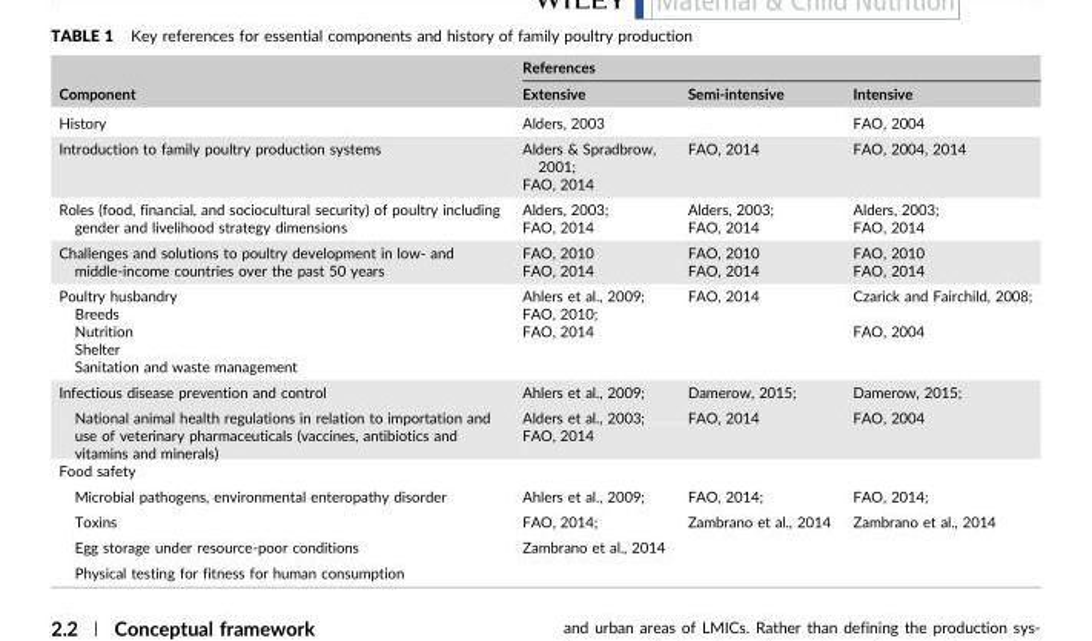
<table><thead><tr><td rowspan="2">Component</td><td colspan="3">References</td></tr><tr><td>Extensive</td><td>Semi‐intensive</td><td>Intensive</td></tr></thead><tbody><tr><td>History</td><td>Alders, 2003</td><td></td><td>FAO, 2004</td></tr><tr><td rowspan="2">Introduction to family poultry production systems</td><td>Alders &amp; Spradbrow, 2001;</td><td rowspan="2">FAO, 2014</td><td rowspan="2">FAO, 2004, 2014</td></tr><tr><td>FAO, 2014</td></tr><tr><td rowspan="2">Roles (food, financial, and sociocultural security) of poultry including gender and livelihood strategy dimensions</td><td>Alders, 2003;</td><td>Alders, 2003;</td><td>Alders, 2003;</td></tr><tr><td>FAO, 2014</td><td>FAO, 2014</td><td>FAO, 2014</td></tr><tr><td rowspan="2">Challenges and solutions to poultry development in low‐ and middle‐income countries over the past 50 years</td><td>FAO, 2010</td><td>FAO, 2010</td><td>FAO, 2010</td></tr><tr><td>FAO, 2014</td><td>FAO, 2014</td><td>FAO, 2014</td></tr><tr><td>Poultry husbandry</td><td>Ahlers et al., 2009;</td><td rowspan="5">FAO, 2014</td><td rowspan="2">Czarick and Fairchild, 2008;</td></tr><tr><td>Breeds</td><td>FAO, 2010;</td></tr><tr><td>Nutrition</td><td rowspan="3">FAO, 2014</td><td rowspan="3">FAO, 2004</td></tr><tr><td>Shelter</td></tr><tr><td>Sanitation and waste management</td></tr><tr><td>Infectious disease prevention and control</td><td>Ahlers et al., 2009;</td><td>Damerow, 2015;</td><td>Damerow, 2015;</td></tr><tr><td rowspan="2">National animal health regulations in relation to importation and use of veterinary pharmaceuticals (vaccines, antibiotics and vitamins and minerals)</td><td>Alders et al., 2003;</td><td rowspan="2">FAO, 2014</td><td rowspan="2">FAO, 2004</td></tr><tr><td>FAO, 2014</td></tr><tr><td colspan="4">Food safety</td></tr><tr><td>Microbial pathogens, environmental enteropathy disorder</td><td>Ahlers et al., 2009;</td><td>FAO, 2014;</td><td>FAO, 2014;</td></tr><tr><td>Toxins</td><td>FAO, 2014;</td><td rowspan="3">Zambrano et al., 2014</td><td rowspan="3">Zambrano et al., 2014</td></tr><tr><td>Egg storage under resource‐poor conditions</td><td rowspan="2">Zambrano et al., 2014</td></tr><tr><td>Physical testing for fitness for human consumption</td></tr></tbody></table>